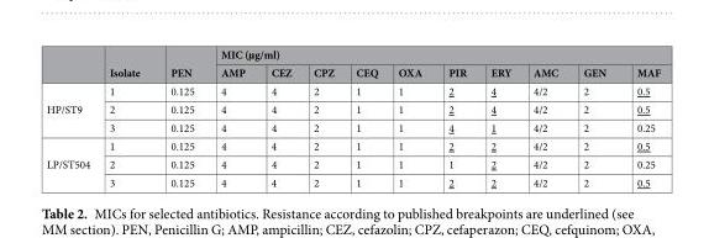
<table><thead><tr><td rowspan="2"></td><td rowspan="2">Isolate</td><td rowspan="2">PEN</td><td colspan="10">MIC (µg/ml)</td></tr><tr><td>AMP</td><td>CEZ</td><td>CPZ</td><td>CEQ</td><td>OXA</td><td>PIR</td><td>ERY</td><td>AMC</td><td>GEN</td><td>MAF</td></tr></thead><tbody><tr><td rowspan="3">HP/ST9</td><td>1</td><td>0.125</td><td>4</td><td>4</td><td>2</td><td>1</td><td>1</td><td>2</td><td>4</td><td>4/2</td><td>2</td><td>0.5</td></tr><tr><td>2</td><td>0.125</td><td>4</td><td>4</td><td>2</td><td>1</td><td>1</td><td>2</td><td>4</td><td>4/2</td><td>2</td><td>0.5</td></tr><tr><td>3</td><td>0.125</td><td>4</td><td>4</td><td>2</td><td>1</td><td>1</td><td>4</td><td>1</td><td>4/2</td><td>2</td><td>0.25</td></tr><tr><td rowspan="3">LP/ST504</td><td>1</td><td>0.125</td><td>4</td><td>4</td><td>2</td><td>1</td><td>1</td><td>2</td><td>2</td><td>4/2</td><td>2</td><td>0.5</td></tr><tr><td>2</td><td>0.125</td><td>4</td><td>4</td><td>2</td><td>1</td><td>1</td><td>1</td><td>2</td><td>4/2</td><td>2</td><td>0.25</td></tr><tr><td>3</td><td>0.125</td><td>4</td><td>4</td><td>2</td><td>1</td><td>1</td><td>2</td><td>2</td><td>4/2</td><td>2</td><td>0.5</td></tr></tbody></table>